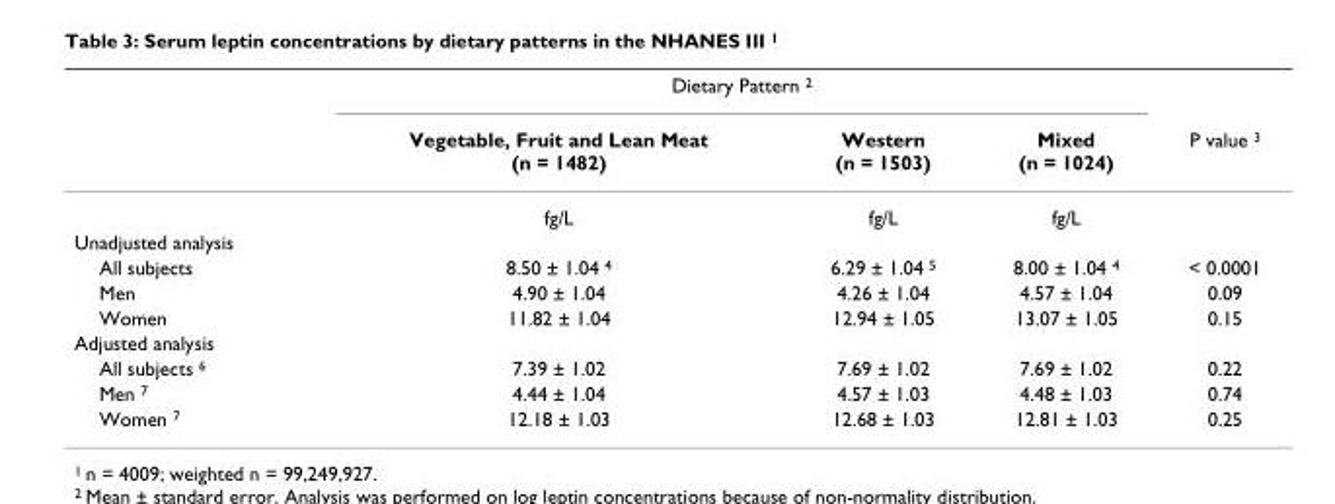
<table><thead><tr><td rowspan="2"></td><td colspan="3">Dietary Pattern <sup>2</sup></td><td rowspan="2">P value <sup>3</sup></td></tr><tr><td>Vegetable, Fruit and Lean Meat (n = 1482)</td><td>Western (n = 1503)</td><td>Mixed (n = 1024)</td></tr></thead><tbody><tr><td></td><td>fg/L</td><td>fg/L</td><td>fg/L</td><td></td></tr><tr><td colspan="5">Unadjusted analysis</td></tr><tr><td>All subjects</td><td>8.50 ± 1.04 <sup>4</sup></td><td>6.29 ± 1.04 <sup>5</sup></td><td>8.00 ± 1.04 <sup>4</sup></td><td>&lt; 0.0001</td></tr><tr><td>Men</td><td>4.90 ± 1.04</td><td>4.26 ± 1.04</td><td>4.57 ± 1.04</td><td>0.09</td></tr><tr><td>Women</td><td>11.82 ± 1.04</td><td>12.94 ± 1.05</td><td>13.07 ± 1.05</td><td>0.15</td></tr><tr><td colspan="5">Adjusted analysis</td></tr><tr><td>All subjects <sup>6</sup></td><td>7.39 ± 1.02</td><td>7.69 ± 1.02</td><td>7.69 ± 1.02</td><td>0.22</td></tr><tr><td>Men <sup>7</sup></td><td>4.44 ± 1.04</td><td>4.57 ± 1.03</td><td>4.48 ± 1.03</td><td>0.74</td></tr><tr><td>Women <sup>7</sup></td><td>12.18 ± 1.03</td><td>12.68 ± 1.03</td><td>12.81 ± 1.03</td><td>0.25</td></tr></tbody></table>